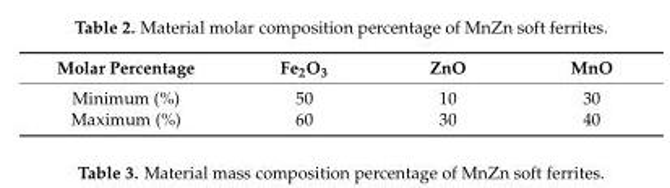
<table><thead><tr><td>Molar Percentage</td><td>Fe<sub>2</sub>O<sub>3</sub></td><td>ZnO</td><td>MnO</td></tr></thead><tbody><tr><td>Minimum (%)</td><td>50</td><td>10</td><td>30</td></tr><tr><td>Maximum (%)</td><td>60</td><td>30</td><td>40</td></tr></tbody></table>